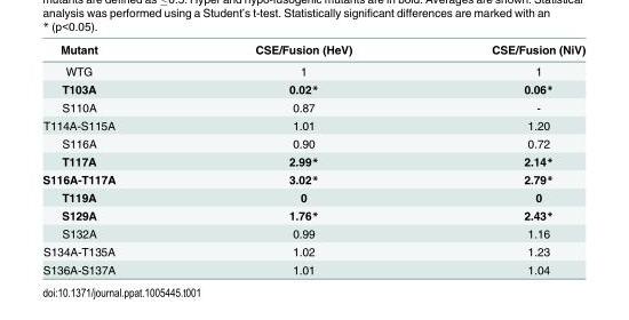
<table><thead><tr><td>Mutant</td><td>CSE/Fusion (HeV)</td><td>CSE/Fusion (NiV)</td></tr></thead><tbody><tr><td>WTG</td><td>1</td><td>1</td></tr><tr><td>T103A</td><td>0.02*</td><td>0.06*</td></tr><tr><td>S110A</td><td>0.87</td><td>-</td></tr><tr><td>T114A-S115A</td><td>1.01</td><td>1.20</td></tr><tr><td>S116A</td><td>0.90</td><td>0.72</td></tr><tr><td>T117A</td><td>2.99*</td><td>2.14*</td></tr><tr><td>S116A-T117A</td><td>3.02*</td><td>2.79*</td></tr><tr><td>T119A</td><td>0</td><td>0</td></tr><tr><td>S129A</td><td>1.76*</td><td>2.43*</td></tr><tr><td>S132A</td><td>0.99</td><td>1.16</td></tr><tr><td>S134A-T135A</td><td>1.02</td><td>1.23</td></tr><tr><td>S136A-S137A</td><td>1.01</td><td>1.04</td></tr></tbody></table>